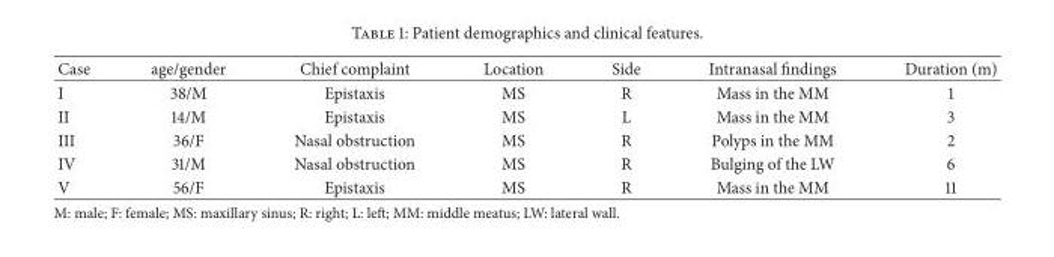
<table><thead><tr><td>Case</td><td>age/gender</td><td>Chief complaint</td><td>Location</td><td>Side</td><td>Intranasal findings</td><td>Duration (m)</td></tr></thead><tbody><tr><td>I</td><td>38/M</td><td>Epistaxis</td><td>MS</td><td>R</td><td>Mass in the MM</td><td>1</td></tr><tr><td>II</td><td>14/M</td><td>Epistaxis</td><td>MS</td><td>L</td><td>Mass in the MM</td><td>3</td></tr><tr><td>III</td><td>36/F</td><td>Nasal obstruction</td><td>MS</td><td>R</td><td>Polyps in the MM</td><td>2</td></tr><tr><td>IV</td><td>31/M</td><td>Nasal obstruction</td><td>MS</td><td>R</td><td>Bulging of the LW</td><td>6</td></tr><tr><td>V</td><td>56/F</td><td>Epistaxis</td><td>MS</td><td>R</td><td>Mass in the MM</td><td>11</td></tr></tbody></table>